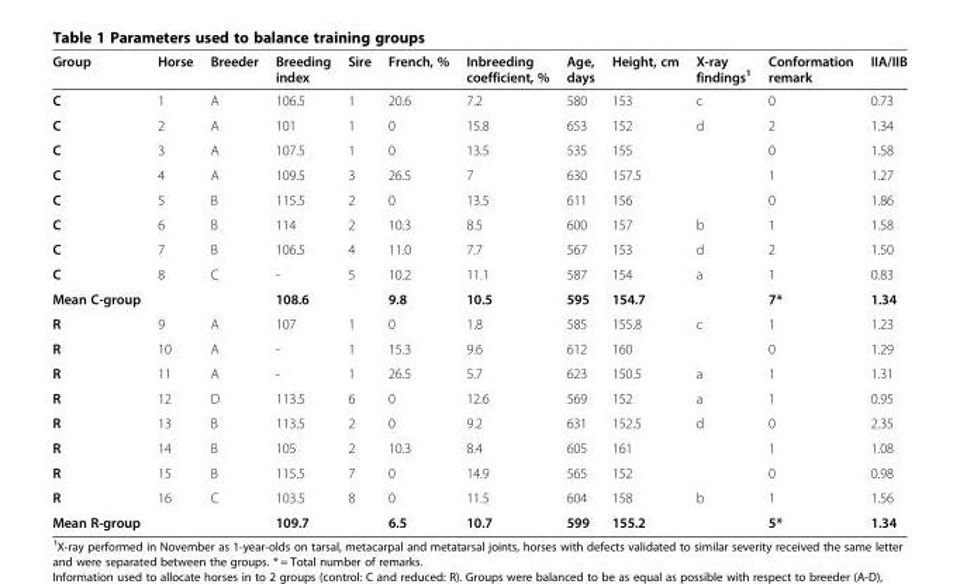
<table><thead><tr><td>Group</td><td>Horse</td><td>Breeder</td><td>Breeding index</td><td>Sire</td><td>French, %</td><td>Inbreeding coefficient, %</td><td>Age, days</td><td>Height, cm</td><td>X-ray findings<sup>1</sup></td><td>Conformation remark</td><td>IIA/IIB</td></tr></thead><tbody><tr><td>C</td><td>1</td><td>A</td><td>106.5</td><td>1</td><td>20.6</td><td>7.2</td><td>580</td><td>153</td><td>c</td><td>0</td><td>0.73</td></tr><tr><td>C</td><td>2</td><td>A</td><td>101</td><td>1</td><td>0</td><td>15.8</td><td>653</td><td>152</td><td>d</td><td>2</td><td>1.34</td></tr><tr><td>C</td><td>3</td><td>A</td><td>107.5</td><td>1</td><td>0</td><td>13.5</td><td>535</td><td>155</td><td></td><td>0</td><td>1.58</td></tr><tr><td>C</td><td>4</td><td>A</td><td>109.5</td><td>3</td><td>26.5</td><td>7</td><td>630</td><td>157.5</td><td></td><td>1</td><td>1.27</td></tr><tr><td>C</td><td>5</td><td>B</td><td>115.5</td><td>2</td><td>0</td><td>13.5</td><td>611</td><td>156</td><td></td><td>0</td><td>1.86</td></tr><tr><td>C</td><td>6</td><td>B</td><td>114</td><td>2</td><td>10.3</td><td>8.5</td><td>600</td><td>157</td><td>b</td><td>1</td><td>1.58</td></tr><tr><td>C</td><td>7</td><td>B</td><td>106.5</td><td>4</td><td>11.0</td><td>7.7</td><td>567</td><td>153</td><td>d</td><td>2</td><td>1.50</td></tr><tr><td>C</td><td>8</td><td>C</td><td>-</td><td>5</td><td>10.2</td><td>11.1</td><td>587</td><td>154</td><td>a</td><td>1</td><td>0.83</td></tr><tr><td>Mean C-group</td><td></td><td></td><td>108.6</td><td></td><td>9.8</td><td>10.5</td><td>595</td><td>154.7</td><td></td><td>7*</td><td>1.34</td></tr><tr><td>R</td><td>9</td><td>A</td><td>107</td><td>1</td><td>0</td><td>1.8</td><td>585</td><td>155.8</td><td>c</td><td>1</td><td>1.23</td></tr><tr><td>R</td><td>10</td><td>A</td><td>-</td><td>1</td><td>15.3</td><td>9.6</td><td>612</td><td>160</td><td></td><td>0</td><td>1.29</td></tr><tr><td>R</td><td>11</td><td>A</td><td>-</td><td>1</td><td>26.5</td><td>5.7</td><td>623</td><td>150.5</td><td>a</td><td>1</td><td>1.31</td></tr><tr><td>R</td><td>12</td><td>D</td><td>113.5</td><td>6</td><td>0</td><td>12.6</td><td>569</td><td>152</td><td>a</td><td>1</td><td>0.95</td></tr><tr><td>R</td><td>13</td><td>B</td><td>113.5</td><td>2</td><td>0</td><td>9.2</td><td>631</td><td>152.5</td><td>d</td><td>0</td><td>2.35</td></tr><tr><td>R</td><td>14</td><td>B</td><td>105</td><td>2</td><td>10.3</td><td>8.4</td><td>605</td><td>161</td><td></td><td>1</td><td>1.08</td></tr><tr><td>R</td><td>15</td><td>B</td><td>115.5</td><td>7</td><td>0</td><td>14.9</td><td>565</td><td>152</td><td></td><td>0</td><td>0.98</td></tr><tr><td>R</td><td>16</td><td>C</td><td>103.5</td><td>8</td><td>0</td><td>11.5</td><td>604</td><td>158</td><td>b</td><td>1</td><td>1.56</td></tr><tr><td>Mean R-group</td><td></td><td></td><td>109.7</td><td></td><td>6.5</td><td>10.7</td><td>599</td><td>155.2</td><td></td><td>5*</td><td>1.34</td></tr></tbody></table>